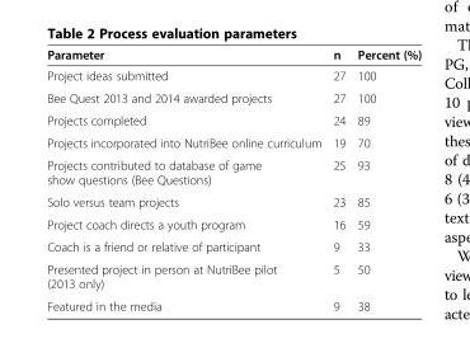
<table><thead><tr><td>Parameter</td><td>n</td><td>Percent (%)</td></tr></thead><tbody><tr><td>Project ideas submitted</td><td>27</td><td>100</td></tr><tr><td>Bee Quest 2013 and 2014 awarded projects</td><td>27</td><td>100</td></tr><tr><td>Projects completed</td><td>24</td><td>89</td></tr><tr><td>Projects incorporated into NutriBee online curriculum</td><td>19</td><td>70</td></tr><tr><td>Projects contributed to database of game show questions (Bee Questions)</td><td>25</td><td>93</td></tr><tr><td>Solo versus team projects</td><td>23</td><td>85</td></tr><tr><td>Project coach directs a youth program</td><td>16</td><td>59</td></tr><tr><td>Coach is a friend or relative of participant</td><td>9</td><td>33</td></tr><tr><td>Presented project in person at NutriBee pilot (2013 only)</td><td>5</td><td>50</td></tr><tr><td>Featured in the media</td><td>9</td><td>38</td></tr></tbody></table>